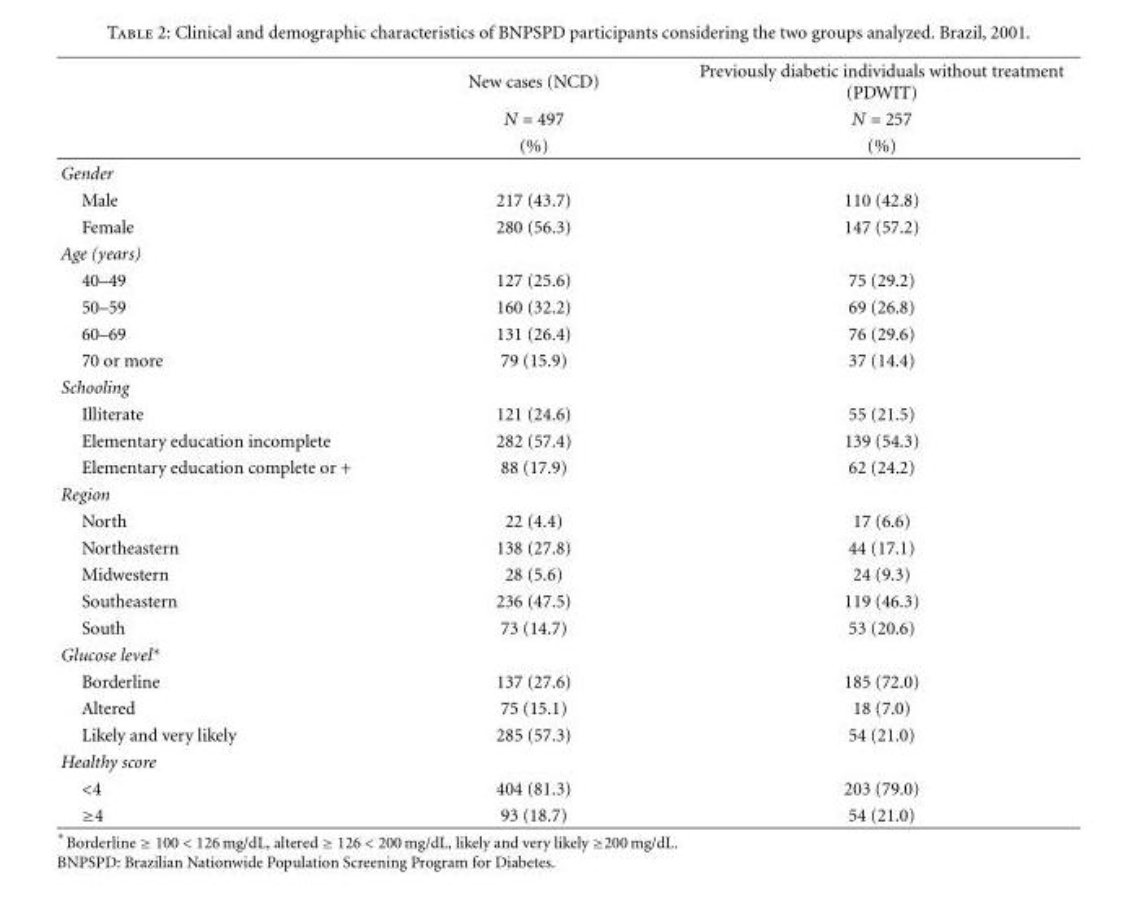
<table><thead><tr><td rowspan="3"></td><td rowspan="3">New cases (NCD) N = 497 (%)</td><td rowspan="3">Previously diabetic individuals without treatment (PDWIT) N = 257 (%)</td></tr><tr></tr><tr></tr></thead><tbody><tr><td colspan="3">Gender</td></tr><tr><td>Male</td><td>217 (43.7)</td><td>110 (42.8)</td></tr><tr><td>Female</td><td>280 (56.3)</td><td>147 (57.2)</td></tr><tr><td colspan="3">Age (years)</td></tr><tr><td>40–49</td><td>127 (25.6)</td><td>75 (29.2)</td></tr><tr><td>50–59</td><td>160 (32.2)</td><td>69 (26.8)</td></tr><tr><td>60–69</td><td>131 (26.4)</td><td>76 (29.6)</td></tr><tr><td>70 or more</td><td>79 (15.9)</td><td>37 (14.4)</td></tr><tr><td colspan="3">Schooling</td></tr><tr><td>Illiterate</td><td>121 (24.6)</td><td>55 (21.5)</td></tr><tr><td>Elementary education incomplete</td><td>282 (57.4)</td><td>139 (54.3)</td></tr><tr><td>Elementary education complete or +</td><td>88 (17.9)</td><td>62 (24.2)</td></tr><tr><td colspan="3">Region</td></tr><tr><td>North</td><td>22 (4.4)</td><td>17 (6.6)</td></tr><tr><td>Northeastern</td><td>138 (27.8)</td><td>44 (17.1)</td></tr><tr><td>Midwestern</td><td>28 (5.6)</td><td>24 (9.3)</td></tr><tr><td>Southeastern</td><td>236 (47.5)</td><td>119 (46.3)</td></tr><tr><td>South</td><td>73 (14.7)</td><td>53 (20.6)</td></tr><tr><td colspan="3">Glucose level∗</td></tr><tr><td>Borderline</td><td>137 (27.6)</td><td>185 (72.0)</td></tr><tr><td>Altered</td><td>75 (15.1)</td><td>18 (7.0)</td></tr><tr><td>Likely and very likely</td><td>285 (57.3)</td><td>54 (21.0)</td></tr><tr><td colspan="3">Healthy score</td></tr><tr><td>&lt;4</td><td>404 (81.3)</td><td>203 (79.0)</td></tr><tr><td>≥4</td><td>93 (18.7)</td><td>54 (21.0)</td></tr></tbody></table>